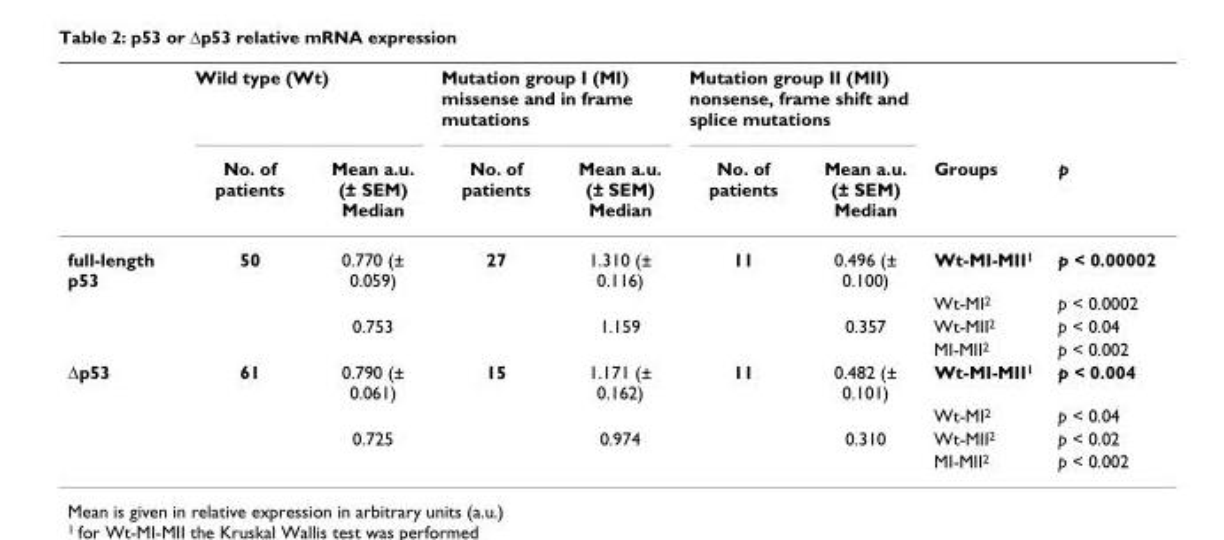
<table><thead><tr><td rowspan="2"></td><td colspan="2">Wild type (Wt)</td><td colspan="2">Mutation group I (MI) missense and in frame mutations</td><td colspan="2">Mutation group II (MII) nonsense, frame shift and splice mutations</td><td rowspan="2">Groups</td><td rowspan="2">p</td></tr><tr><td>No. of patients</td><td>Mean a.u. (± SEM) Median</td><td>No. of patients</td><td>Mean a.u. (± SEM) Median</td><td>No. of patients</td><td>Mean a.u. (± SEM) Median</td></tr></thead><tbody><tr><td rowspan="4">full-length p53</td><td>50</td><td>0.770 (± 0.059)</td><td>27</td><td>1.310 (± 0.116)</td><td>11</td><td>0.496 (± 0.100)</td><td>Wt-MI-MII<sup>1</sup></td><td>p &lt; 0.00002</td></tr><tr><td></td><td></td><td></td><td></td><td></td><td></td><td>Wt-MI<sup>2</sup></td><td>p &lt; 0.0002</td></tr><tr><td></td><td>0.753</td><td></td><td>1.159</td><td></td><td>0.357</td><td>Wt-MII<sup>2</sup></td><td>p &lt; 0.04</td></tr><tr><td></td><td></td><td></td><td></td><td></td><td></td><td>MI-MII<sup>2</sup></td><td>p &lt; 0.002</td></tr><tr><td rowspan="4">Δp53</td><td>61</td><td>0.790 (± 0.061)</td><td>15</td><td>1.171 (± 0.162)</td><td>11</td><td>0.482 (± 0.101)</td><td>Wt-MI-MII<sup>1</sup></td><td>p &lt; 0.004</td></tr><tr><td></td><td></td><td></td><td></td><td></td><td></td><td>Wt-MI<sup>2</sup></td><td>p &lt; 0.04</td></tr><tr><td></td><td>0.725</td><td></td><td>0.974</td><td></td><td>0.310</td><td>Wt-MII<sup>2</sup></td><td>p &lt; 0.02</td></tr><tr><td></td><td></td><td></td><td></td><td></td><td></td><td>MI-MII<sup>2</sup></td><td>p &lt; 0.002</td></tr></tbody></table>